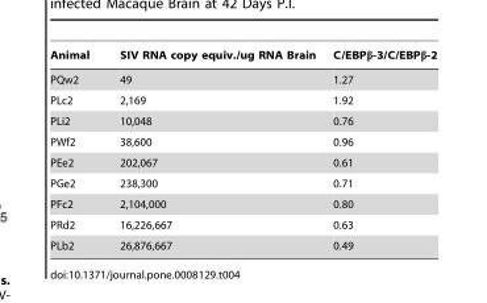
<table><thead><tr><td>Animal</td><td>SIV RNA copy equiv./ug RNA Brain</td><td>C/EBPβ-3/C/EBPβ-2</td></tr></thead><tbody><tr><td>PQw2</td><td>49</td><td>1.27</td></tr><tr><td>PLc2</td><td>2,169</td><td>1.92</td></tr><tr><td>PLi2</td><td>10,048</td><td>0.76</td></tr><tr><td>PWf2</td><td>38,600</td><td>0.96</td></tr><tr><td>PEe2</td><td>202,067</td><td>0.61</td></tr><tr><td>PGe2</td><td>238,300</td><td>0.71</td></tr><tr><td>PFc2</td><td>2,104,000</td><td>0.80</td></tr><tr><td>PRd2</td><td>16,226,667</td><td>0.63</td></tr><tr><td>PLb2</td><td>26,876,667</td><td>0.49</td></tr></tbody></table>